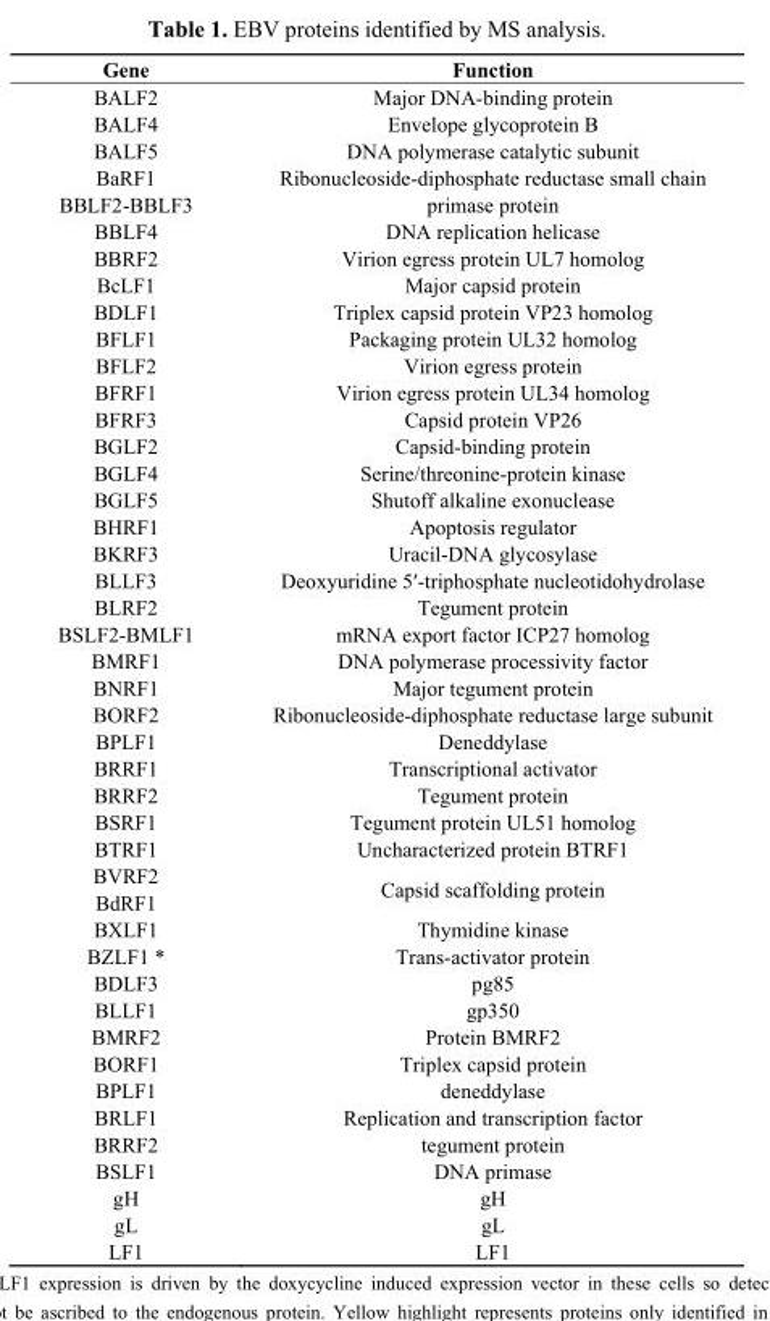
<table><thead><tr><td>Gene</td><td>Function</td></tr></thead><tbody><tr><td>BALF2</td><td>Major DNA-binding protein</td></tr><tr><td>BALF4</td><td>Envelope glycoprotein B</td></tr><tr><td>BALF5</td><td>DNA polymerase catalytic subunit</td></tr><tr><td>BaRF1</td><td>Ribonucleoside-diphosphate reductase small chain</td></tr><tr><td>BBLF2-BBLF3</td><td>primase protein</td></tr><tr><td>BBLF4</td><td>DNA replication helicase</td></tr><tr><td>BBRF2</td><td>Virion egress protein UL7 homolog</td></tr><tr><td>BcLF1</td><td>Major capsid protein</td></tr><tr><td>BDLF1</td><td>Triplex capsid protein VP23 homolog</td></tr><tr><td>BFLF1</td><td>Packaging protein UL32 homolog</td></tr><tr><td>BFLF2</td><td>Virion egress protein</td></tr><tr><td>BFRF1</td><td>Virion egress protein UL34 homolog</td></tr><tr><td>BFRF3</td><td>Capsid protein VP26</td></tr><tr><td>BGLF2</td><td>Capsid-binding protein</td></tr><tr><td>BGLF4</td><td>Serine/threonine-protein kinase</td></tr><tr><td>BGLF5</td><td>Shutoff alkaline exonuclease</td></tr><tr><td>BHRF1</td><td>Apoptosis regulator</td></tr><tr><td>BKRF3</td><td>Uracil-DNA glycosylase</td></tr><tr><td>BLLF3</td><td>Deoxyuridine 5′-triphosphate nucleotidohydrolase</td></tr><tr><td>BLRF2</td><td>Tegument protein</td></tr><tr><td>BSLF2-BMLF1</td><td>mRNA export factor ICP27 homolog</td></tr><tr><td>BMRF1</td><td>DNA polymerase processivity factor</td></tr><tr><td>BNRF1</td><td>Major tegument protein</td></tr><tr><td>BORF2</td><td>Ribonucleoside-diphosphate reductase large subunit</td></tr><tr><td>BPLF1</td><td>Deneddylase</td></tr><tr><td>BRRF1</td><td>Transcriptional activator</td></tr><tr><td>BRRF2</td><td>Tegument protein</td></tr><tr><td>BSRF1</td><td>Tegument protein UL51 homolog</td></tr><tr><td>BTRF1</td><td>Uncharacterized protein BTRF1</td></tr><tr><td>BVRF2</td><td rowspan="2">Capsid scaffolding protein</td></tr><tr><td>BdRF1</td></tr><tr><td>BXLF1</td><td>Thymidine kinase</td></tr><tr><td>BZLF1 *</td><td>Trans-activator protein</td></tr><tr><td>BDLF3</td><td>pg85</td></tr><tr><td>BLLF1</td><td>gp350</td></tr><tr><td>BMRF2</td><td>Protein BMRF2</td></tr><tr><td>BORF1</td><td>Triplex capsid protein</td></tr><tr><td>BPLF1</td><td>deneddylase</td></tr><tr><td>BRLF1</td><td>Replication and transcription factor</td></tr><tr><td>BRRF2</td><td>tegument protein</td></tr><tr><td>BSLF1</td><td>DNA primase</td></tr><tr><td>gH</td><td>gH</td></tr><tr><td>gL</td><td>gL</td></tr><tr><td>LF1</td><td>LF1</td></tr></tbody></table>